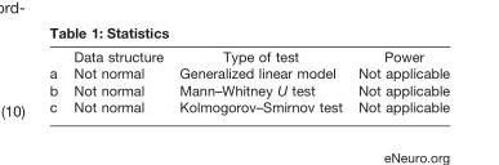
<table><thead><tr><td></td><td>Data structure</td><td>Type of test</td><td>Power</td></tr></thead><tbody><tr><td>a</td><td>Not normal</td><td>Generalized linear model</td><td>Not applicable</td></tr><tr><td>b</td><td>Not normal</td><td>Mann–Whitney U test</td><td>Not applicable</td></tr><tr><td>c</td><td>Not normal</td><td>Kolmogorov–Smirnov test</td><td>Not applicable</td></tr></tbody></table>